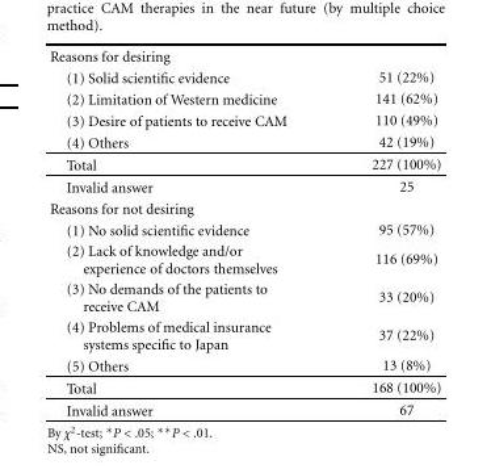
<table><tbody><tr><td colspan="2">Reasons for desiring</td></tr><tr><td>(1) Solid scientific evidence</td><td>51 (22%)</td></tr><tr><td>(2) Limitation of Western medicine</td><td>141 (62%)</td></tr><tr><td>(3) Desire of patients to receive CAM</td><td>110 (49%)</td></tr><tr><td>(4) Others</td><td>42 (19%)</td></tr><tr><td>Total</td><td>227 (100%)</td></tr><tr><td>Invalid answer</td><td>25</td></tr><tr><td colspan="2">Reasons for not desiring</td></tr><tr><td>(1) No solid scientific evidence</td><td>95 (57%)</td></tr><tr><td>(2) Lack of knowledge and/or experience of doctors themselves</td><td>116 (69%)</td></tr><tr><td>(3) No demands of the patients to receive CAM</td><td>33 (20%)</td></tr><tr><td>(4) Problems of medical insurance systems specific to Japan</td><td>37 (22%)</td></tr><tr><td>(5) Others</td><td>13 (8%)</td></tr><tr><td>Total</td><td>168 (100%)</td></tr><tr><td>Invalid answer</td><td>67</td></tr></tbody></table>